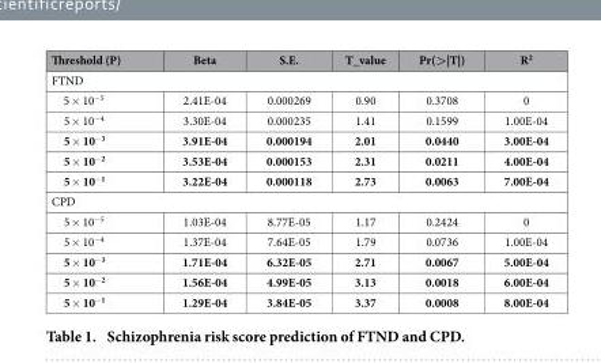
<table><thead><tr><td>Threshold (P)</td><td>Beta</td><td>S.E.</td><td>T_value</td><td>Pr(&gt;|T|)</td><td>R<sup>2</sup></td></tr></thead><tbody><tr><td colspan="6">FTND</td></tr><tr><td>5 × 10<sup>−5</sup></td><td>2.41E-04</td><td>0.000269</td><td>0.90</td><td>0.3708</td><td>0</td></tr><tr><td>5 × 10<sup>−4</sup></td><td>3.30E-04</td><td>0.000235</td><td>1.41</td><td>0.1599</td><td>1.00E-04</td></tr><tr><td>5 × 10<sup>−3</sup></td><td>3.91E-04</td><td>0.000194</td><td>2.01</td><td>0.0440</td><td>3.00E-04</td></tr><tr><td>5 × 10<sup>−2</sup></td><td>3.53E-04</td><td>0.000153</td><td>2.31</td><td>0.0211</td><td>4.00E-04</td></tr><tr><td>5 × 10<sup>−1</sup></td><td>3.22E-04</td><td>0.000118</td><td>2.73</td><td>0.0063</td><td>7.00E-04</td></tr><tr><td colspan="6">CPD</td></tr><tr><td>5 × 10<sup>−5</sup></td><td>1.03E-04</td><td>8.77E-05</td><td>1.17</td><td>0.2424</td><td>0</td></tr><tr><td>5 × 10<sup>−4</sup></td><td>1.37E-04</td><td>7.64E-05</td><td>1.79</td><td>0.0736</td><td>1.00E-04</td></tr><tr><td>5 × 10<sup>−3</sup></td><td>1.71E-04</td><td>6.32E-05</td><td>2.71</td><td>0.0067</td><td>5.00E-04</td></tr><tr><td>5 × 10<sup>−2</sup></td><td>1.56E-04</td><td>4.99E-05</td><td>3.13</td><td>0.0018</td><td>6.00E-04</td></tr><tr><td>5 × 10<sup>−1</sup></td><td>1.29E-04</td><td>3.84E-05</td><td>3.37</td><td>0.0008</td><td>8.00E-04</td></tr></tbody></table>